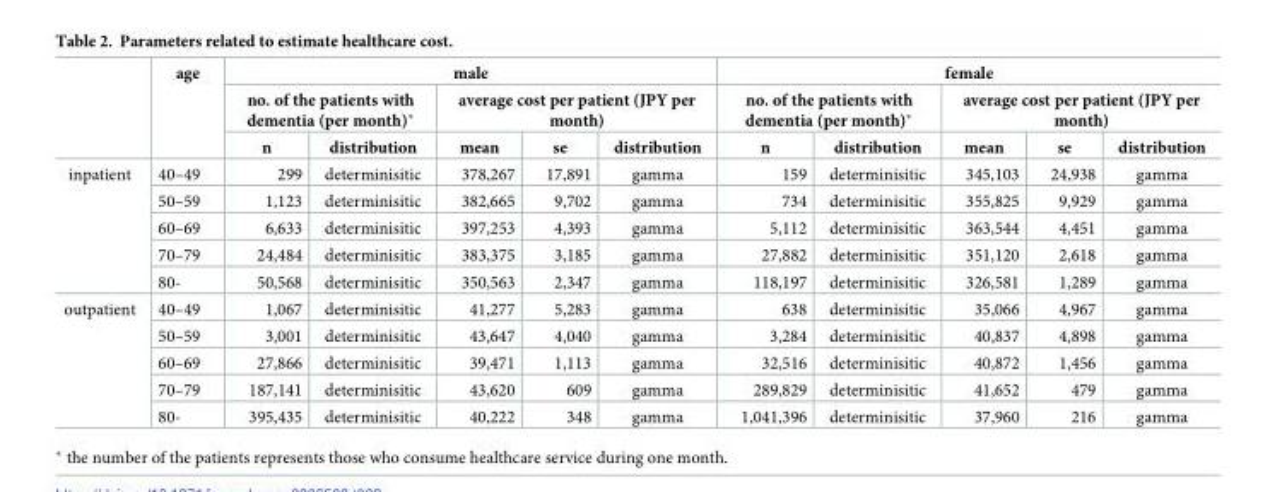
<table><thead><tr><td rowspan="3"></td><td rowspan="3">age</td><td colspan="5">male</td><td colspan="5">female</td></tr><tr><td colspan="2">no. of the patients with dementia (per month)*</td><td colspan="3">average cost per patient (JPY per month)</td><td colspan="2">no. of the patients with dementia (per month)*</td><td colspan="3">average cost per patient (JPY per month)</td></tr><tr><td>n</td><td>distribution</td><td>mean</td><td>se</td><td>distribution</td><td>n</td><td>distribution</td><td>mean</td><td>se</td><td>distribution</td></tr></thead><tbody><tr><td rowspan="5">inpatient</td><td>40–49</td><td>299</td><td>determinisitic</td><td>378,267</td><td>17,891</td><td>gamma</td><td>159</td><td>determinisitic</td><td>345,103</td><td>24,938</td><td>gamma</td></tr><tr><td>50–59</td><td>1,123</td><td>determinisitic</td><td>382,665</td><td>9,702</td><td>gamma</td><td>734</td><td>determinisitic</td><td>355,825</td><td>9,929</td><td>gamma</td></tr><tr><td>60–69</td><td>6,633</td><td>determinisitic</td><td>397,253</td><td>4,393</td><td>gamma</td><td>5,112</td><td>determinisitic</td><td>363,544</td><td>4,451</td><td>gamma</td></tr><tr><td>70–79</td><td>24,484</td><td>determinisitic</td><td>383,375</td><td>3,185</td><td>gamma</td><td>27,882</td><td>determinisitic</td><td>351,120</td><td>2,618</td><td>gamma</td></tr><tr><td>80-</td><td>50,568</td><td>determinisitic</td><td>350,563</td><td>2,347</td><td>gamma</td><td>118,197</td><td>determinisitic</td><td>326,581</td><td>1,289</td><td>gamma</td></tr><tr><td rowspan="5">outpatient</td><td>40–49</td><td>1,067</td><td>determinisitic</td><td>41,277</td><td>5,283</td><td>gamma</td><td>638</td><td>determinisitic</td><td>35,066</td><td>4,967</td><td>gamma</td></tr><tr><td>50–59</td><td>3,001</td><td>determinisitic</td><td>43,647</td><td>4,040</td><td>gamma</td><td>3,284</td><td>determinisitic</td><td>40,837</td><td>4,898</td><td>gamma</td></tr><tr><td>60–69</td><td>27,866</td><td>determinisitic</td><td>39,471</td><td>1,113</td><td>gamma</td><td>32,516</td><td>determinisitic</td><td>40,872</td><td>1,456</td><td>gamma</td></tr><tr><td>70–79</td><td>187,141</td><td>determinisitic</td><td>43,620</td><td>609</td><td>gamma</td><td>289,829</td><td>determinisitic</td><td>41,652</td><td>479</td><td>gamma</td></tr><tr><td>80-</td><td>395,435</td><td>determinisitic</td><td>40,222</td><td>348</td><td>gamma</td><td>1,041,396</td><td>determinisitic</td><td>37,960</td><td>216</td><td>gamma</td></tr></tbody></table>